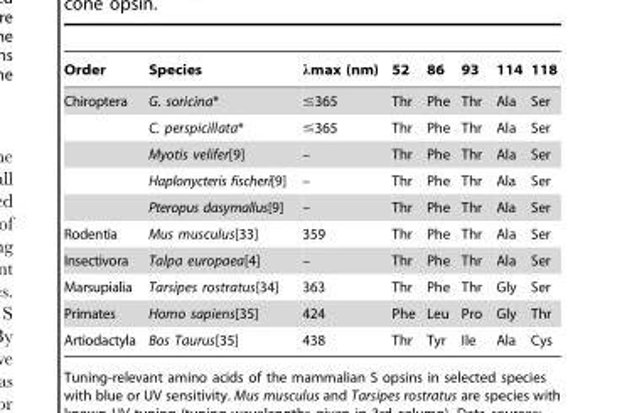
<table><thead><tr><td>Order</td><td>Species</td><td>λmax (nm)</td><td>52</td><td>86</td><td>93</td><td>114</td><td>118</td></tr></thead><tbody><tr><td rowspan="5">Chiroptera</td><td>G. soricina*</td><td>≤365</td><td>Thr</td><td>Phe</td><td>Thr</td><td>Ala</td><td>Ser</td></tr><tr><td>C. perspicillata*</td><td>≤365</td><td>Thr</td><td>Phe</td><td>Thr</td><td>Ala</td><td>Ser</td></tr><tr><td>Myotis velifer[9]</td><td>–</td><td>Thr</td><td>Phe</td><td>Thr</td><td>Ala</td><td>Ser</td></tr><tr><td>Haplonycteris fischeri[9]</td><td>–</td><td>Thr</td><td>Phe</td><td>Thr</td><td>Ala</td><td>Ser</td></tr><tr><td>Pteropus dasymallus[9]</td><td>–</td><td>Thr</td><td>Phe</td><td>Thr</td><td>Ala</td><td>Ser</td></tr><tr><td>Rodentia</td><td>Mus musculus[33]</td><td>359</td><td>Thr</td><td>Phe</td><td>Thr</td><td>Ala</td><td>Ser</td></tr><tr><td>Insectivora</td><td>Talpa europaea[4]</td><td>–</td><td>Thr</td><td>Phe</td><td>Thr</td><td>Ala</td><td>Ser</td></tr><tr><td>Marsupialia</td><td>Tarsipes rostratus[34]</td><td>363</td><td>Thr</td><td>Phe</td><td>Thr</td><td>Gly</td><td>Ser</td></tr><tr><td>Primates</td><td>Homo sapiens[35]</td><td>424</td><td>Phe</td><td>Leu</td><td>Pro</td><td>Gly</td><td>Thr</td></tr><tr><td>Artiodactyla</td><td>Bos Taurus[35]</td><td>438</td><td>Thr</td><td>Tyr</td><td>Ile</td><td>Ala</td><td>Cys</td></tr></tbody></table>